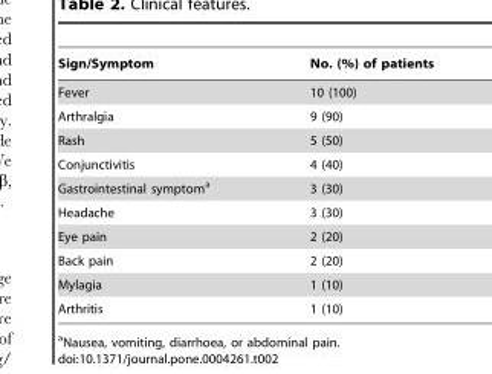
<table><thead><tr><td>Sign/Symptom</td><td>No. (%) of patients</td></tr></thead><tbody><tr><td>Fever</td><td>10 (100)</td></tr><tr><td>Arthralgia</td><td>9 (90)</td></tr><tr><td>Rash</td><td>5 (50)</td></tr><tr><td>Conjunctivitis</td><td>4 (40)</td></tr><tr><td>Gastrointestinal symptom<sup>a</sup></td><td>3 (30)</td></tr><tr><td>Headache</td><td>3 (30)</td></tr><tr><td>Eye pain</td><td>2 (20)</td></tr><tr><td>Back pain</td><td>2 (20)</td></tr><tr><td>Mylagia</td><td>1 (10)</td></tr><tr><td>Arthritis</td><td>1 (10)</td></tr></tbody></table>